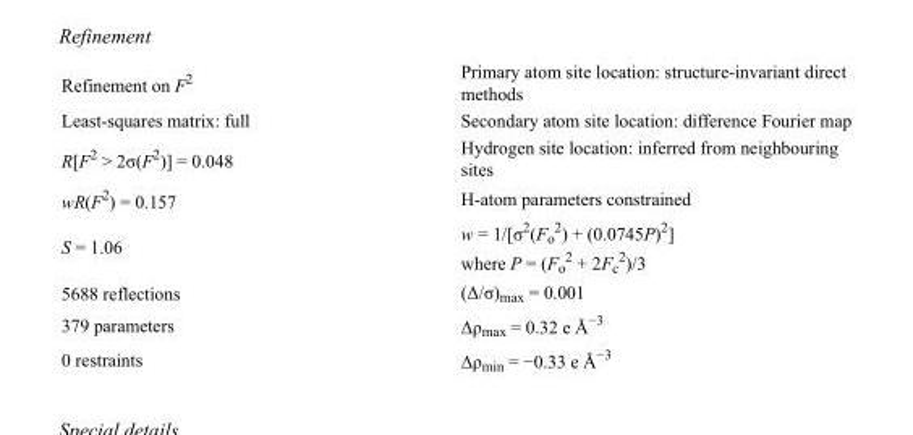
<table><tbody><tr><td>Refinement on F<sup>2</sup></td><td>Primary atom site location: structure-invariant direct methods</td></tr><tr><td>Least-squares matrix: full</td><td>Secondary atom site location: difference Fourier map</td></tr><tr><td>R[F<sup>2</sup> &gt; 2σ(F<sup>2</sup>)] = 0.048</td><td>Hydrogen site location: inferred from neighbouring sites</td></tr><tr><td>wR(F<sup>2</sup>) = 0.157</td><td>H-atom parameters constrained</td></tr><tr><td>S = 1.06</td><td>w = 1/[σ<sup>2</sup>(F<sub>o</sub> <sup>2</sup>) + (0.0745P)<sup>2</sup>] where P = (F<sub>o</sub> <sup>2</sup> + 2F<sub>c</sub> <sup>2</sup>)/3</td></tr><tr><td>5688 reflections</td><td>(Δ/σ)<sub>max</sub> = 0.001</td></tr><tr><td>379 parameters</td><td>Δρ<sub>max</sub> = 0.32 e Å<sup>−3</sup></td></tr><tr><td>0 restraints</td><td>Δρ<sub>min</sub> = −0.33 e Å<sup>−3</sup></td></tr></tbody></table>